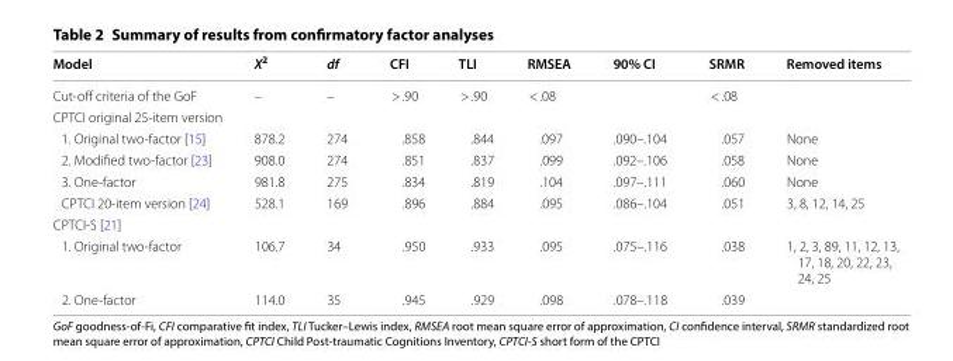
<table><thead><tr><td>Model</td><td>X<sup>2</sup></td><td>df</td><td>CFI</td><td>TLI</td><td>RMSEA</td><td>90% CI</td><td>SRMR</td><td>Removed items</td></tr></thead><tbody><tr><td>Cut‑off criteria of the GoF</td><td>–</td><td>–</td><td>&gt; .90</td><td>&gt; .90</td><td>&lt; .08</td><td></td><td>&lt; .08</td><td></td></tr><tr><td colspan="9">CPTCI original 25‑item version</td></tr><tr><td>1. Original two‑factor [15]</td><td>878.2</td><td>274</td><td>.858</td><td>.844</td><td>.097</td><td>.090–.104</td><td>.057</td><td>None</td></tr><tr><td>2. Modified two‑factor [23]</td><td>908.0</td><td>274</td><td>.851</td><td>.837</td><td>.099</td><td>.092–.106</td><td>.058</td><td>None</td></tr><tr><td>3. One‑factor</td><td>981.8</td><td>275</td><td>.834</td><td>.819</td><td>.104</td><td>.097–.111</td><td>.060</td><td>None</td></tr><tr><td>CPTCI 20‑item version [24]</td><td>528.1</td><td>169</td><td>.896</td><td>.884</td><td>.095</td><td>.086–.104</td><td>.051</td><td>3, 8, 12, 14, 25</td></tr><tr><td colspan="9">CPTCI‑S [21]</td></tr><tr><td>1. Original two‑factor</td><td>106.7</td><td>34</td><td>.950</td><td>.933</td><td>.095</td><td>.075–.116</td><td>.038</td><td>1, 2, 3, 89, 11, 12, 13, 17, 18, 20, 22, 23, 24, 25</td></tr><tr><td>2. One‑factor</td><td>114.0</td><td>35</td><td>.945</td><td>.929</td><td>.098</td><td>.078–.118</td><td>.039</td><td></td></tr></tbody></table>